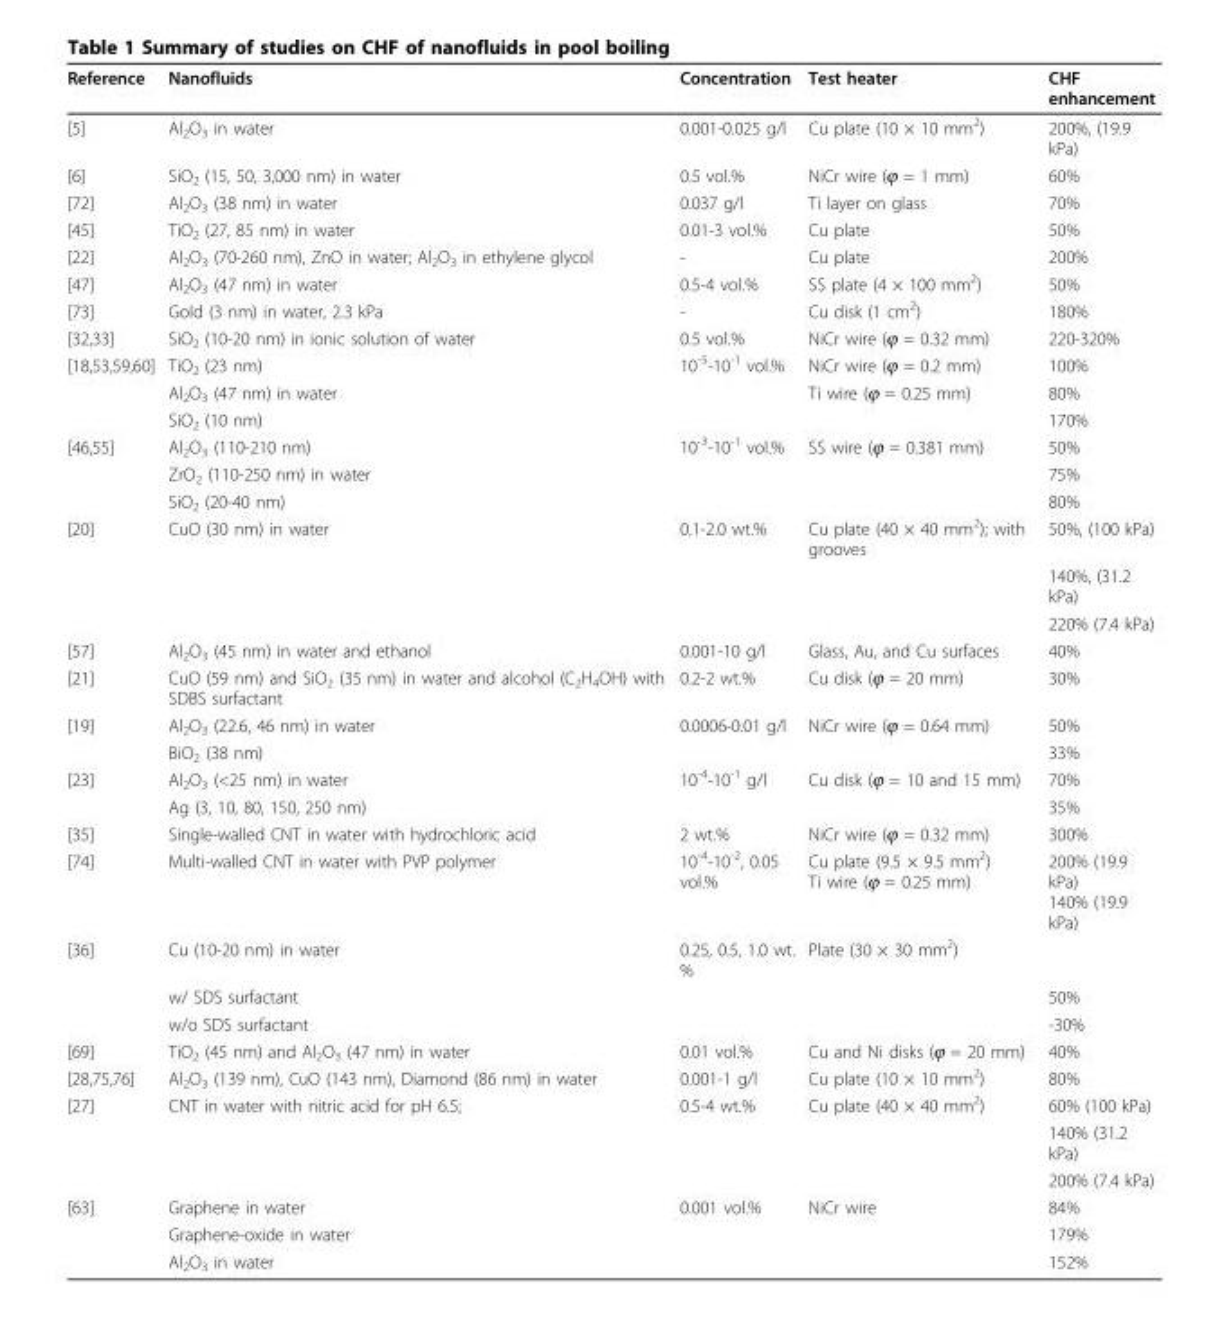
<table><thead><tr><td>Reference</td><td>Nanofluids</td><td>Concentration</td><td>Test heater</td><td>CHF enhancement</td></tr></thead><tbody><tr><td>[5]</td><td>Al<sub>2</sub>O<sub>3</sub> in water</td><td>0.001-0.025 g/l</td><td>Cu plate (10 × 10 mm<sup>2</sup>)</td><td>200%, (19.9 kPa)</td></tr><tr><td>[6]</td><td>SiO<sub>2</sub> (15, 50, 3,000 nm) in water</td><td>0.5 vol.%</td><td>NiCr wire (ϕ = 1 mm)</td><td>60%</td></tr><tr><td>[72]</td><td>Al<sub>2</sub>O<sub>3</sub> (38 nm) in water</td><td>0.037 g/l</td><td>Ti layer on glass</td><td>70%</td></tr><tr><td>[45]</td><td>TiO<sub>2</sub> (27, 85 nm) in water</td><td>0.01-3 vol.%</td><td>Cu plate</td><td>50%</td></tr><tr><td>[22]</td><td>Al<sub>2</sub>O<sub>3</sub> (70-260 nm), ZnO in water; Al<sub>2</sub>O<sub>3</sub> in ethylene glycol</td><td>-</td><td>Cu plate</td><td>200%</td></tr><tr><td>[47]</td><td>Al<sub>2</sub>O<sub>3</sub> (47 nm) in water</td><td>0.5-4 vol.%</td><td>SS plate (4 × 100 mm<sup>2</sup>)</td><td>50%</td></tr><tr><td>[73]</td><td>Gold (3 nm) in water, 2.3 kPa</td><td>-</td><td>Cu disk (1 cm<sup>2</sup>)</td><td>180%</td></tr><tr><td>[32,33]</td><td>SiO<sub>2</sub> (10-20 nm) in ionic solution of water</td><td>0.5 vol.%</td><td>NiCr wire (ϕ = 0.32 mm)</td><td>220-320%</td></tr><tr><td rowspan="3">[18,53,59,60]</td><td>TiO<sub>2</sub> (23 nm)</td><td>10<sup>-5</sup>-10<sup>-1</sup> vol.%</td><td>NiCr wire (ϕ = 0.2 mm)</td><td>100%</td></tr><tr><td>Al<sub>2</sub>O<sub>3</sub> (47 nm) in water</td><td></td><td>Ti wire (ϕ = 0.25 mm)</td><td>80%</td></tr><tr><td>SiO<sub>2</sub> (10 nm)</td><td></td><td></td><td>170%</td></tr><tr><td rowspan="3">[46,55]</td><td>Al<sub>2</sub>O<sub>3</sub> (110-210 nm)</td><td>10<sup>-3</sup>-10<sup>-1</sup> vol.%</td><td>SS wire (ϕ = 0.381 mm)</td><td>50%</td></tr><tr><td>ZrO<sub>2</sub> (110-250 nm) in water</td><td></td><td></td><td>75%</td></tr><tr><td>SiO<sub>2</sub> (20-40 nm)</td><td></td><td></td><td>80%</td></tr><tr><td rowspan="3">[20]</td><td>CuO (30 nm) in water</td><td>0.1-2.0 wt.%</td><td>Cu plate (40 × 40 mm<sup>2</sup>); with grooves</td><td>50%, (100 kPa)</td></tr><tr><td></td><td></td><td></td><td>140%, (31.2 kPa)</td></tr><tr><td></td><td></td><td></td><td>220% (7.4 kPa)</td></tr><tr><td>[57]</td><td>Al<sub>2</sub>O<sub>3</sub> (45 nm) in water and ethanol</td><td>0.001-10 g/l</td><td>Glass, Au, and Cu surfaces</td><td>40%</td></tr><tr><td>[21]</td><td>CuO (59 nm) and SiO<sub>2</sub> (35 nm) in water and alcohol (C<sub>2</sub>H<sub>4</sub>OH) with SDBS surfactant</td><td>0.2-2 wt.%</td><td>Cu disk (ϕ = 20 mm)</td><td>30%</td></tr><tr><td rowspan="2">[19]</td><td>Al<sub>2</sub>O<sub>3</sub> (22.6, 46 nm) in water</td><td>0.0006-0.01 g/l</td><td>NiCr wire (ϕ = 0.64 mm)</td><td>50%</td></tr><tr><td>BiO<sub>2</sub> (38 nm)</td><td></td><td></td><td>33%</td></tr><tr><td rowspan="2">[23]</td><td>Al<sub>2</sub>O<sub>3</sub> (&lt;25 nm) in water</td><td>10<sup>-4</sup>-10<sup>-1</sup> g/l</td><td>Cu disk (ϕ = 10 and 15 mm)</td><td>70%</td></tr><tr><td>Ag (3, 10, 80, 150, 250 nm)</td><td></td><td></td><td>35%</td></tr><tr><td>[35]</td><td>Single-walled CNT in water with hydrochloric acid</td><td>2 wt.%</td><td>NiCr wire (ϕ = 0.32 mm)</td><td>300%</td></tr><tr><td>[74]</td><td>Multi-walled CNT in water with PVP polymer</td><td>10<sup>-4</sup>-10<sup>-2</sup>, 0.05 vol.%</td><td>Cu plate (9.5 × 9.5 mm<sup>2</sup>) Ti wire (ϕ = 0.25 mm)</td><td>200% (19.9 kPa) 140% (19.9 kPa)</td></tr><tr><td rowspan="3">[36]</td><td>Cu (10-20 nm) in water</td><td>0.25, 0.5, 1.0 wt. %</td><td>Plate (30 × 30 mm<sup>2</sup>)</td><td></td></tr><tr><td>w/ SDS surfactant</td><td></td><td></td><td>50%</td></tr><tr><td>w/o SDS surfactant</td><td></td><td></td><td>-30%</td></tr><tr><td>[69]</td><td>TiO<sub>2</sub> (45 nm) and Al<sub>2</sub>O<sub>3</sub> (47 nm) in water</td><td>0.01 vol.%</td><td>Cu and Ni disks (ϕ = 20 mm)</td><td>40%</td></tr><tr><td>[28,75,76]</td><td>Al<sub>2</sub>O<sub>3</sub> (139 nm), CuO (143 nm), Diamond (86 nm) in water</td><td>0.001-1 g/l</td><td>Cu plate (10 × 10 mm<sup>2</sup>)</td><td>80%</td></tr><tr><td rowspan="3">[27]</td><td>CNT in water with nitric acid for pH 6.5;</td><td>0.5-4 wt.%</td><td>Cu plate (40 × 40 mm<sup>2</sup>)</td><td>60% (100 kPa)</td></tr><tr><td></td><td></td><td></td><td>140% (31.2 kPa)</td></tr><tr><td></td><td></td><td></td><td>200% (7.4 kPa)</td></tr><tr><td rowspan="3">[63]</td><td>Graphene in water</td><td>0.001 vol.%</td><td>NiCr wire</td><td>84%</td></tr><tr><td>Graphene-oxide in water</td><td></td><td></td><td>179%</td></tr><tr><td>Al<sub>2</sub>O<sub>3</sub> in water</td><td></td><td></td><td>152%</td></tr></tbody></table>